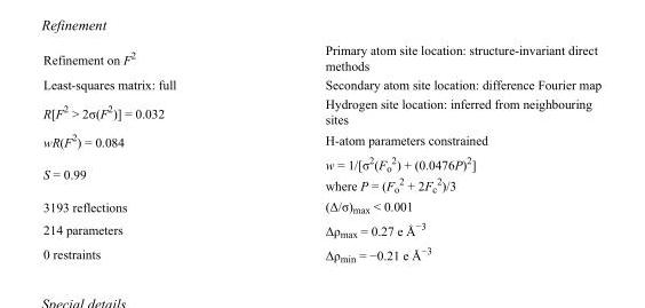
<table><tbody><tr><td>Refinement on F<sup>2</sup></td><td>Primary atom site location: structure-invariant direct methods</td></tr><tr><td>Least-squares matrix: full</td><td>Secondary atom site location: difference Fourier map</td></tr><tr><td>R[F<sup>2</sup> &gt; 2σ(F<sup>2</sup>)] = 0.032</td><td>Hydrogen site location: inferred from neighbouring sites</td></tr><tr><td>wR(F<sup>2</sup>) = 0.084</td><td>H-atom parameters constrained</td></tr><tr><td>S = 0.99</td><td>w = 1/[σ<sup>2</sup>(F<sub>o</sub> <sup>2</sup>) + (0.0476P)<sup>2</sup>] where P = (F<sub>o</sub> <sup>2</sup> + 2F<sub>c</sub> <sup>2</sup>)/3</td></tr><tr><td>3193 reflections</td><td>(Δ/σ)<sub>max</sub> &lt; 0.001</td></tr><tr><td>214 parameters</td><td>Δρ<sub>max</sub> = 0.27 e Å<sup>−3</sup></td></tr><tr><td>0 restraints</td><td>Δρmin = −0.21 e Å−3</td></tr></tbody></table>